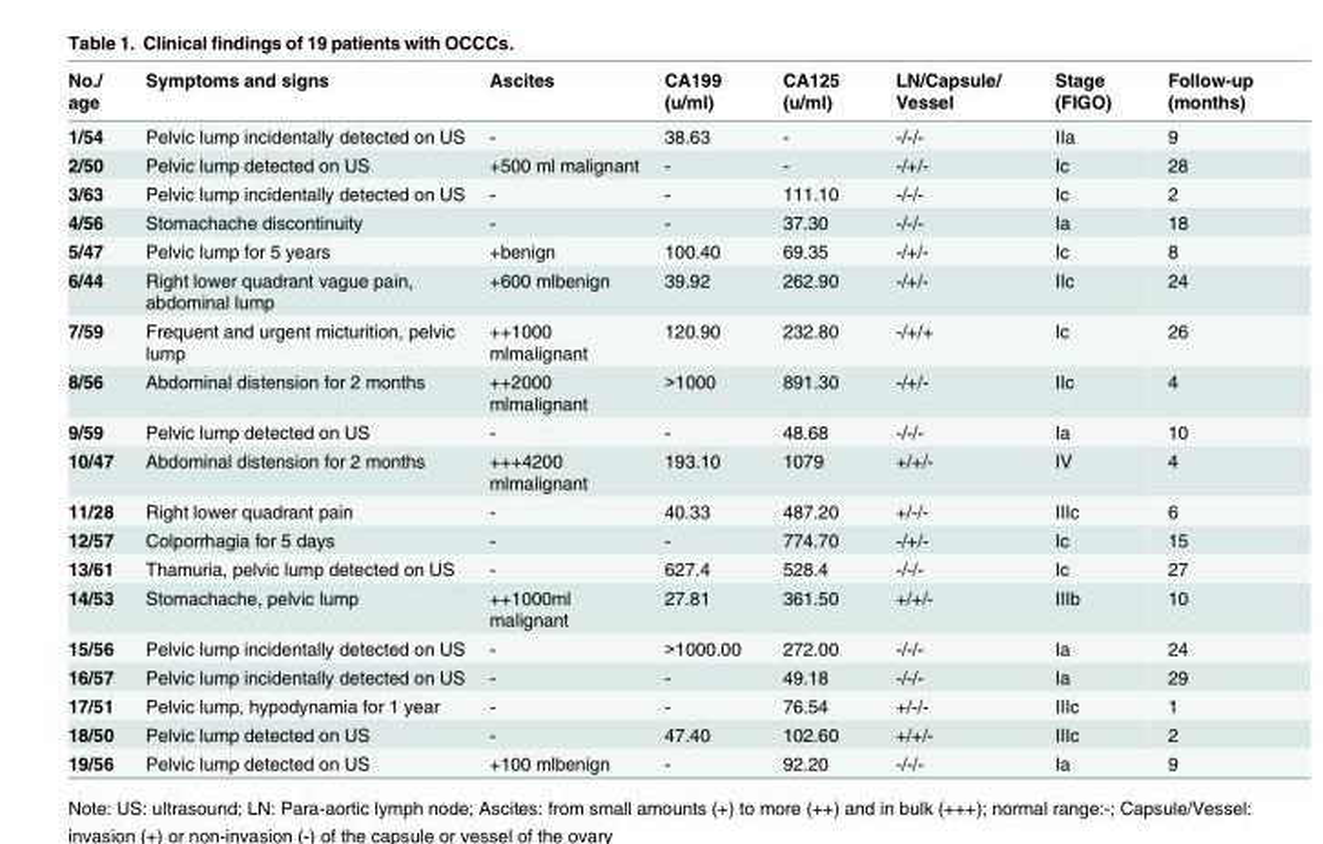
<table><thead><tr><td>No./ age</td><td>Symptoms and signs</td><td>Ascites</td><td>CA199 (u/ml)</td><td>CA125 (u/ml)</td><td>LN/Capsule/ Vessel</td><td>Stage (FIGO)</td><td>Follow-up (months)</td></tr></thead><tbody><tr><td>1/54</td><td>Pelvic lump incidentally detected on US</td><td>-</td><td>38.63</td><td>-</td><td>-/-/-</td><td>IIa</td><td>9</td></tr><tr><td>2/50</td><td>Pelvic lump detected on US</td><td>+500 ml malignant</td><td>-</td><td>-</td><td>-/+/-</td><td>Ic</td><td>28</td></tr><tr><td>3/63</td><td>Pelvic lump incidentally detected on US</td><td>-</td><td>-</td><td>111.10</td><td>-/-/-</td><td>Ic</td><td>2</td></tr><tr><td>4/56</td><td>Stomachache discontinuity</td><td>-</td><td>-</td><td>37.30</td><td>-/-/-</td><td>Ia</td><td>18</td></tr><tr><td>5/47</td><td>Pelvic lump for 5 years</td><td>+benign</td><td>100.40</td><td>69.35</td><td>-/+/-</td><td>Ic</td><td>8</td></tr><tr><td>6/44</td><td>Right lower quadrant vague pain, abdominal lump</td><td>+600 mlbenign</td><td>39.92</td><td>262.90</td><td>-/+/-</td><td>IIc</td><td>24</td></tr><tr><td>7/59</td><td>Frequent and urgent micturition, pelvic lump</td><td>++1000 mlmalignant</td><td>120.90</td><td>232.80</td><td>-/+/+</td><td>Ic</td><td>26</td></tr><tr><td>8/56</td><td>Abdominal distension for 2 months</td><td>++2000 mlmalignant</td><td>&gt;1000</td><td>891.30</td><td>-/+/-</td><td>IIc</td><td>4</td></tr><tr><td>9/59</td><td>Pelvic lump detected on US</td><td>-</td><td>-</td><td>48.68</td><td>-/-/-</td><td>Ia</td><td>10</td></tr><tr><td>10/47</td><td>Abdominal distension for 2 months</td><td>+++4200 mlmalignant</td><td>193.10</td><td>1079</td><td>+/+/-</td><td>IV</td><td>4</td></tr><tr><td>11/28</td><td>Right lower quadrant pain</td><td>-</td><td>40.33</td><td>487.20</td><td>+/-/-</td><td>IIIc</td><td>6</td></tr><tr><td>12/57</td><td>Colporrhagia for 5 days</td><td>-</td><td>-</td><td>774.70</td><td>-/+/-</td><td>Ic</td><td>15</td></tr><tr><td>13/61</td><td>Thamuria, pelvic lump detected on US</td><td>-</td><td>627.4</td><td>528.4</td><td>-/-/-</td><td>Ic</td><td>27</td></tr><tr><td>14/53</td><td>Stomachache, pelvic lump</td><td>++1000ml malignant</td><td>27.81</td><td>361.50</td><td>+/+/-</td><td>IIIb</td><td>10</td></tr><tr><td>15/56</td><td>Pelvic lump incidentally detected on US</td><td>-</td><td>&gt;1000.00</td><td>272.00</td><td>-/-/-</td><td>Ia</td><td>24</td></tr><tr><td>16/57</td><td>Pelvic lump incidentally detected on US</td><td>-</td><td>-</td><td>49.18</td><td>-/-/-</td><td>Ia</td><td>29</td></tr><tr><td>17/51</td><td>Pelvic lump, hypodynamia for 1 year</td><td>-</td><td>-</td><td>76.54</td><td>+/-/-</td><td>IIIc</td><td>1</td></tr><tr><td>18/50</td><td>Pelvic lump detected on US</td><td>-</td><td>47.40</td><td>102.60</td><td>+/+/-</td><td>IIIc</td><td>2</td></tr><tr><td>19/56</td><td>Pelvic lump detected on US</td><td>+100 mlbenign</td><td>-</td><td>92.20</td><td>-/-/-</td><td>Ia</td><td>9</td></tr></tbody></table>